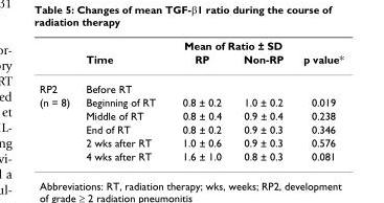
<table><thead><tr><td rowspan="2"></td><td rowspan="2">Time</td><td colspan="2">Mean of Ratio ± SD</td><td rowspan="2">p value*</td></tr><tr><td>RP</td><td>Non-RP</td></tr></thead><tbody><tr><td>RP2</td><td>Before RT</td><td></td><td></td><td></td></tr><tr><td rowspan="5">(n = 8)</td><td>Beginning of RT</td><td>0.8 ± 0.2</td><td>1.0 ± 0.2</td><td>0.019</td></tr><tr><td>Middle of RT</td><td>0.8 ± 0.4</td><td>0.9 ± 0.4</td><td>0.238</td></tr><tr><td>End of RT</td><td>0.8 ± 0.2</td><td>0.9 ± 0.3</td><td>0.346</td></tr><tr><td>2 wks after RT</td><td>1.0 ± 0.6</td><td>0.9 ± 0.3</td><td>0.576</td></tr><tr><td>4 wks after RT</td><td>1.6 ± 1.0</td><td>0.8 ± 0.3</td><td>0.081</td></tr></tbody></table>